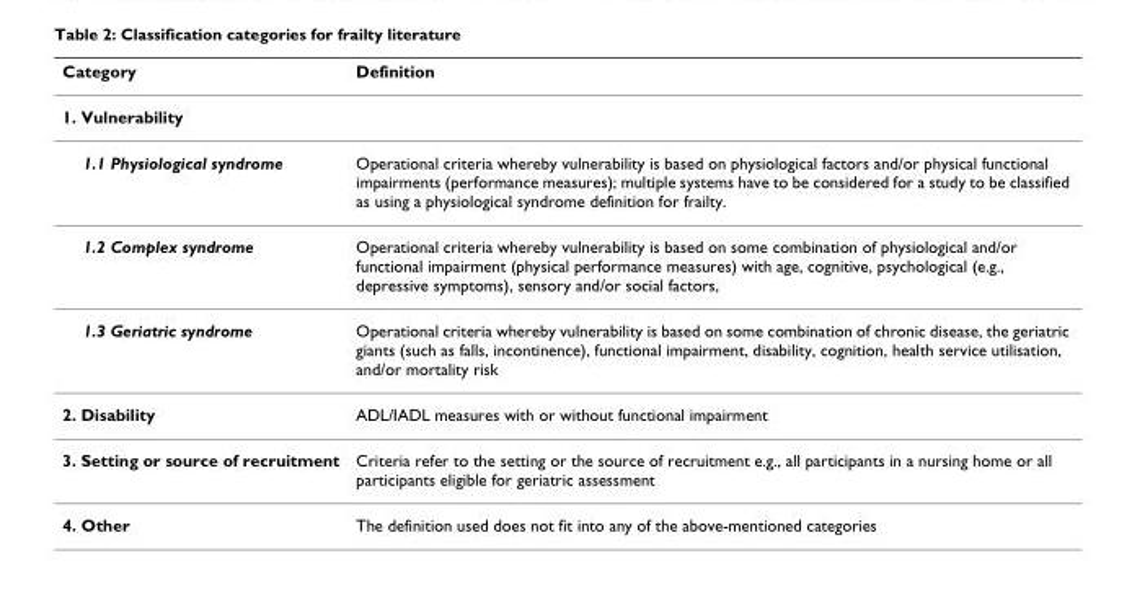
<table><thead><tr><td>Category</td><td>Definition</td></tr></thead><tbody><tr><td colspan="2">1. Vulnerability</td></tr><tr><td>1.1 Physiological syndrome</td><td>Operational criteria whereby vulnerability is based on physiological factors and/or physical functional impairments (performance measures); multiple systems have to be considered for a study to be classified as using a physiological syndrome definition for frailty.</td></tr><tr><td>1.2 Complex syndrome</td><td>Operational criteria whereby vulnerability is based on some combination of physiological and/or functional impairment (physical performance measures) with age, cognitive, psychological (e.g., depressive symptoms), sensory and/or social factors,</td></tr><tr><td>1.3 Geriatric syndrome</td><td>Operational criteria whereby vulnerability is based on some combination of chronic disease, the geriatric giants (such as falls, incontinence), functional impairment, disability, cognition, health service utilisation, and/or mortality risk</td></tr><tr><td>2. Disability</td><td>ADL/IADL measures with or without functional impairment</td></tr><tr><td>3. Setting or source of recruitment</td><td>Criteria refer to the setting or the source of recruitment e.g., all participants in a nursing home or all participants eligible for geriatric assessment</td></tr><tr><td>4. Other</td><td>The definition used does not fit into any of the above-mentioned categories</td></tr></tbody></table>